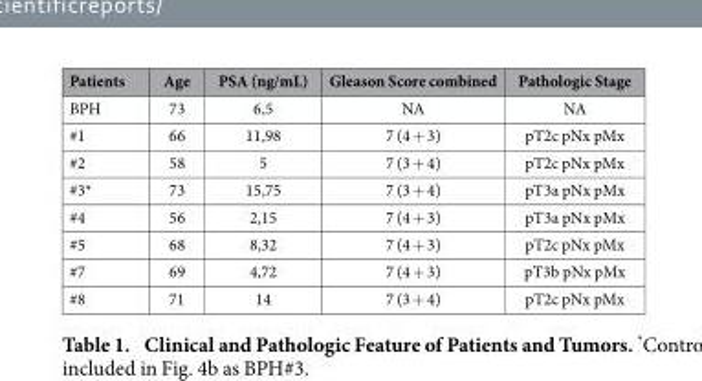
<table><thead><tr><td>Patients</td><td>Age</td><td>PSA (ng/mL)</td><td>Gleason Score combined</td><td>Pathologic Stage</td></tr></thead><tbody><tr><td>BPH</td><td>73</td><td>6,5</td><td>NA</td><td>NA</td></tr><tr><td>#1</td><td>66</td><td>11,98</td><td>7 (4 + 3)</td><td>pT2c pNx pMx</td></tr><tr><td>#2</td><td>58</td><td>5</td><td>7 (3 + 4)</td><td>pT2c pNx pMx</td></tr><tr><td>#3*</td><td>73</td><td>15,75</td><td>7 (3 + 4)</td><td>pT3a pNx pMx</td></tr><tr><td>#4</td><td>56</td><td>2,15</td><td>7 (4 + 3)</td><td>pT3a pNx pMx</td></tr><tr><td>#5</td><td>68</td><td>8,32</td><td>7 (4 + 3)</td><td>pT2c pNx pMx</td></tr><tr><td>#7</td><td>69</td><td>4,72</td><td>7 (4 + 3)</td><td>pT3b pNx pMx</td></tr><tr><td>#8</td><td>71</td><td>14</td><td>7 (3 + 4)</td><td>pT2c pNx pMx</td></tr></tbody></table>